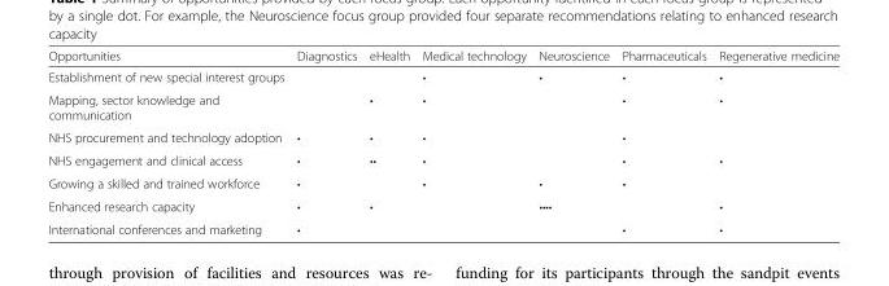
<table><thead><tr><td>Opportunities</td><td>Diagnostics</td><td>eHealth</td><td>Medical technology</td><td>Neuroscience</td><td>Pharmaceuticals</td><td>Regenerative medicine</td></tr></thead><tbody><tr><td>Establishment of new special interest groups</td><td></td><td></td><td>•</td><td>•</td><td>•</td><td>•</td></tr><tr><td>Mapping, sector knowledge and communication</td><td></td><td>•</td><td>•</td><td></td><td>•</td><td>•</td></tr><tr><td>NHS procurement and technology adoption</td><td>•</td><td>•</td><td>•</td><td></td><td>•</td><td></td></tr><tr><td>NHS engagement and clinical access</td><td>•</td><td>••</td><td>•</td><td></td><td>•</td><td>•</td></tr><tr><td>Growing a skilled and trained workforce</td><td>•</td><td></td><td>•</td><td>•</td><td>•</td><td></td></tr><tr><td>Enhanced research capacity</td><td>•</td><td>•</td><td></td><td>••••</td><td></td><td>•</td></tr><tr><td>International conferences and marketing</td><td>•</td><td></td><td></td><td></td><td>•</td><td>•</td></tr></tbody></table>